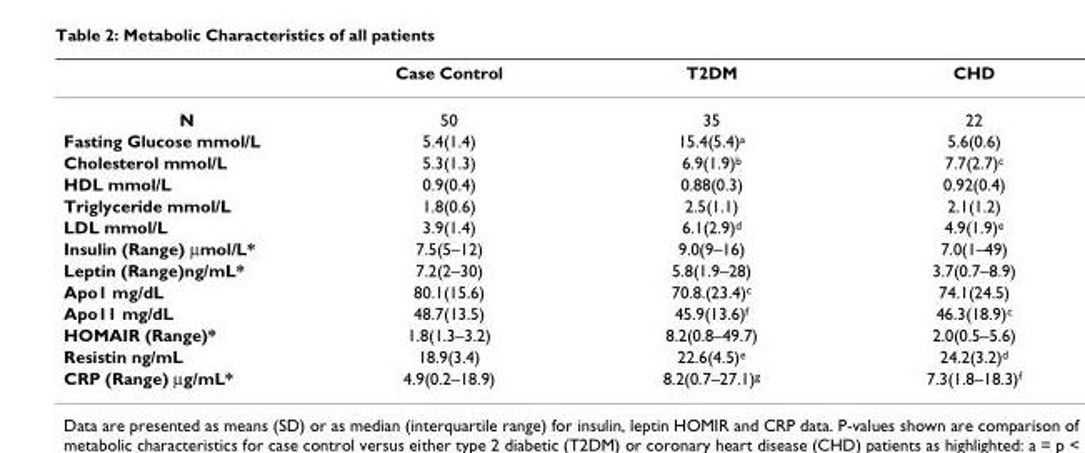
<table><thead><tr><td></td><td>Case Control</td><td>T2DM</td><td>CHD</td></tr></thead><tbody><tr><td>N</td><td>50</td><td>35</td><td>22</td></tr><tr><td>Fasting Glucose mmol/L</td><td>5.4(1.4)</td><td>15.4(5.4)<sup>a</sup></td><td>5.6(0.6)</td></tr><tr><td>Cholesterol mmol/L</td><td>5.3(1.3)</td><td>6.9(1.9)<sup>b</sup></td><td>7.7(2.7)<sup>c</sup></td></tr><tr><td>HDL mmol/L</td><td>0.9(0.4)</td><td>0.88(0.3)</td><td>0.92(0.4)</td></tr><tr><td>Triglyceride mmol/L</td><td>1.8(0.6)</td><td>2.5(1.1)</td><td>2.1(1.2)</td></tr><tr><td>LDL mmol/L</td><td>3.9(1.4)</td><td>6.1(2.9)<sup>d</sup></td><td>4.9(1.9)<sup>e</sup></td></tr><tr><td>Insulin (Range) µmol/L*</td><td>7.5(5–12)</td><td>9.0(9–16)</td><td>7.0(1–49)</td></tr><tr><td>Leptin (Range)ng/mL*</td><td>7.2(2–30)</td><td>5.8(1.9–28)</td><td>3.7(0.7–8.9)</td></tr><tr><td>Apo1 mg/dL</td><td>80.1(15.6)</td><td>70.8.(23.4)<sup>c</sup></td><td>74.1(24.5)</td></tr><tr><td>Apo11 mg/dL</td><td>48.7(13.5)</td><td>45.9(13.6)<sup>f</sup></td><td>46.3(18.9)<sup>c</sup></td></tr><tr><td>HOMAIR (Range)*</td><td>1.8(1.3–3.2)</td><td>8.2(0.8–49.7)</td><td>2.0(0.5–5.6)</td></tr><tr><td>Resistin ng/mL</td><td>18.9(3.4)</td><td>22.6(4.5)<sup>e</sup></td><td>24.2(3.2)<sup>d</sup></td></tr><tr><td>CRP (Range) µg/mL*</td><td>4.9(0.2–18.9)</td><td>8.2(0.7–27.1)<sup>g</sup></td><td>7.3(1.8–18.3)<sup>f</sup></td></tr></tbody></table>